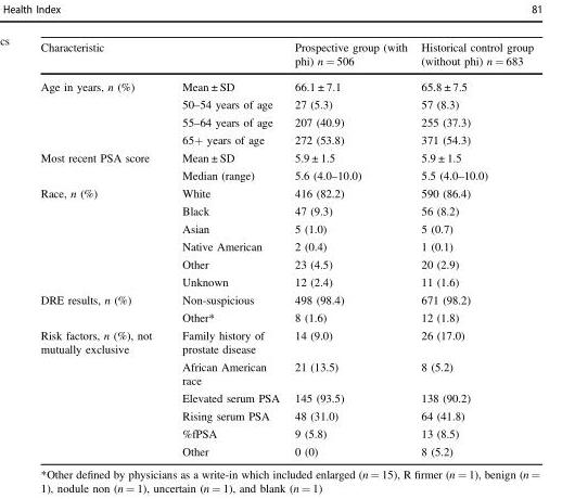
<table><thead><tr><td>Characteristic</td><td></td><td>Prospective group (with phi) n = 506</td><td>Historical control group (without phi) n = 683</td></tr></thead><tbody><tr><td rowspan="4">Age in years, n (%)</td><td>Mean ± SD</td><td>66.1 ± 7.1</td><td>65.8 ± 7.5</td></tr><tr><td>50–54 years of age</td><td>27 (5.3)</td><td>57 (8.3)</td></tr><tr><td>55–64 years of age</td><td>207 (40.9)</td><td>255 (37.3)</td></tr><tr><td>65+ years of age</td><td>272 (53.8)</td><td>371 (54.3)</td></tr><tr><td rowspan="2">Most recent PSA score</td><td>Mean ± SD</td><td>5.9 ± 1.5</td><td>5.9 ± 1.5</td></tr><tr><td>Median (range)</td><td>5.6 (4.0–10.0)</td><td>5.5 (4.0–10.0)</td></tr><tr><td rowspan="6">Race, n (%)</td><td>White</td><td>416 (82.2)</td><td>590 (86.4)</td></tr><tr><td>Black</td><td>47 (9.3)</td><td>56 (8.2)</td></tr><tr><td>Asian</td><td>5 (1.0)</td><td>5 (0.7)</td></tr><tr><td>Native American</td><td>2 (0.4)</td><td>1 (0.1)</td></tr><tr><td>Other</td><td>23 (4.5)</td><td>20 (2.9)</td></tr><tr><td>Unknown</td><td>12 (2.4)</td><td>11 (1.6)</td></tr><tr><td rowspan="2">DRE results, n (%)</td><td>Non-suspicious</td><td>498 (98.4)</td><td>671 (98.2)</td></tr><tr><td>Other*</td><td>8 (1.6)</td><td>12 (1.8)</td></tr><tr><td rowspan="6">Risk factors, n (%), not mutually exclusive</td><td>Family history of prostate disease</td><td>14 (9.0)</td><td>26 (17.0)</td></tr><tr><td>African American race</td><td>21 (13.5)</td><td>8 (5.2)</td></tr><tr><td>Elevated serum PSA</td><td>145 (93.5)</td><td>138 (90.2)</td></tr><tr><td>Rising serum PSA</td><td>48 (31.0)</td><td>64 (41.8)</td></tr><tr><td>%fPSA</td><td>9 (5.8)</td><td>13 (8.5)</td></tr><tr><td>Other</td><td>0 (0)</td><td>8 (5.2)</td></tr></tbody></table>